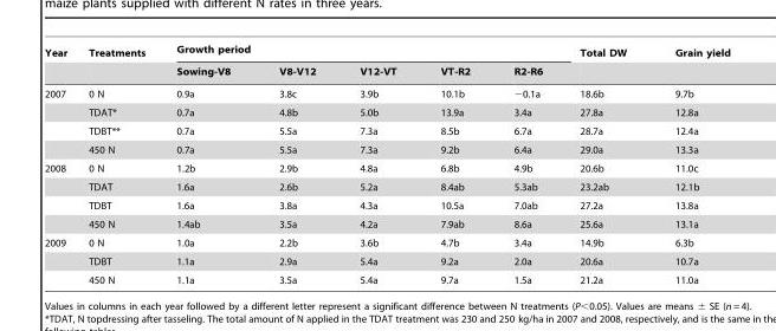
<table><thead><tr><td rowspan="2">Year</td><td rowspan="2">Treatments</td><td colspan="5">Growth period</td><td rowspan="2">Total DW</td><td rowspan="2">Grain yield</td></tr><tr><td>Sowing-V8</td><td>V8-V12</td><td>V12-VT</td><td>VT-R2</td><td>R2-R6</td></tr></thead><tbody><tr><td rowspan="4">2007</td><td>0 N</td><td>0.9a</td><td>3.8c</td><td>3.9b</td><td>10.1b</td><td>−0.1a</td><td>18.6b</td><td>9.7b</td></tr><tr><td>TDAT*</td><td>0.7a</td><td>4.8b</td><td>5.0b</td><td>13.9a</td><td>3.4a</td><td>27.8a</td><td>12.8a</td></tr><tr><td>TDBT**</td><td>0.7a</td><td>5.5a</td><td>7.3a</td><td>8.5b</td><td>6.7a</td><td>28.7a</td><td>12.4a</td></tr><tr><td>450 N</td><td>0.7a</td><td>5.5a</td><td>7.3a</td><td>9.2b</td><td>6.4a</td><td>29.0a</td><td>13.3a</td></tr><tr><td rowspan="4">2008</td><td>0 N</td><td>1.2b</td><td>2.9b</td><td>4.8a</td><td>6.8b</td><td>4.9b</td><td>20.6b</td><td>11.0c</td></tr><tr><td>TDAT</td><td>1.6a</td><td>2.6b</td><td>5.2a</td><td>8.4ab</td><td>5.3ab</td><td>23.2ab</td><td>12.1b</td></tr><tr><td>TDBT</td><td>1.6a</td><td>3.8a</td><td>4.3a</td><td>10.5a</td><td>7.0ab</td><td>27.2a</td><td>13.8a</td></tr><tr><td>450 N</td><td>1.4ab</td><td>3.5a</td><td>4.2a</td><td>7.9ab</td><td>8.6a</td><td>25.6a</td><td>13.1a</td></tr><tr><td rowspan="3">2009</td><td>0 N</td><td>1.0a</td><td>2.2b</td><td>3.6b</td><td>4.7b</td><td>3.4a</td><td>14.9b</td><td>6.3b</td></tr><tr><td>TDBT</td><td>1.1a</td><td>2.9a</td><td>5.4a</td><td>9.2a</td><td>2.0a</td><td>20.6a</td><td>10.7a</td></tr><tr><td>450 N</td><td>1.1a</td><td>3.5a</td><td>5.4a</td><td>9.7a</td><td>1.5a</td><td>21.2a</td><td>11.0a</td></tr></tbody></table>